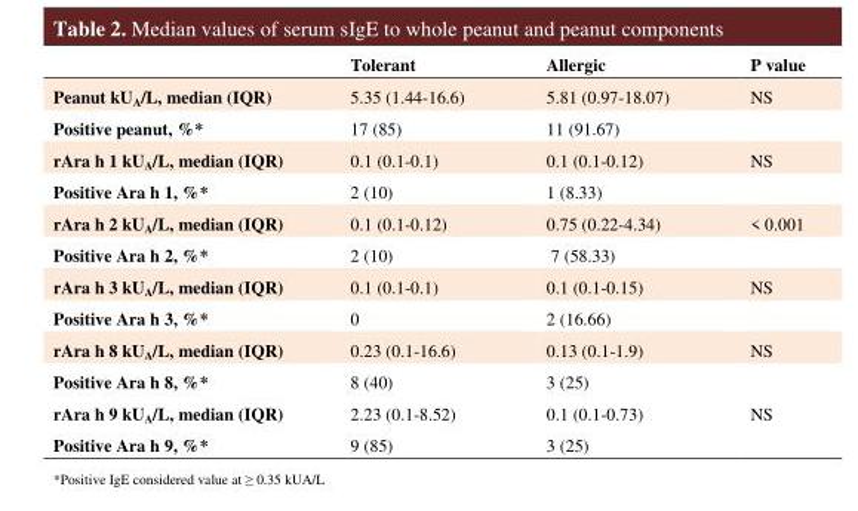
<table><thead><tr><td></td><td>Tolerant</td><td>Allergic</td><td>P value</td></tr></thead><tbody><tr><td>Peanut kU<sub>A</sub>/L, median (IQR)</td><td>5.35 (1.44-16.6)</td><td>5.81 (0.97-18.07)</td><td>NS</td></tr><tr><td>Positive peanut, %*</td><td>17 (85)</td><td>11 (91.67)</td><td></td></tr><tr><td>rAra h 1 kU<sub>A</sub>/L, median (IQR)</td><td>0.1 (0.1-0.1)</td><td>0.1 (0.1-0.12)</td><td>NS</td></tr><tr><td>Positive Ara h 1, %*</td><td>2 (10)</td><td>1 (8.33)</td><td></td></tr><tr><td>rAra h 2 kU<sub>A</sub>/L, median (IQR)</td><td>0.1 (0.1-0.12)</td><td>0.75 (0.22-4.34)</td><td>&lt; 0.001</td></tr><tr><td>Positive Ara h 2, %*</td><td>2 (10)</td><td>7 (58.33)</td><td></td></tr><tr><td>rAra h 3 kU<sub>A</sub>/L, median (IQR)</td><td>0.1 (0.1-0.1)</td><td>0.1 (0.1-0.15)</td><td>NS</td></tr><tr><td>Positive Ara h 3, %*</td><td>0</td><td>2 (16.66)</td><td></td></tr><tr><td>rAra h 8 kU<sub>A</sub>/L, median (IQR)</td><td>0.23 (0.1-16.6)</td><td>0.13 (0.1-1.9)</td><td>NS</td></tr><tr><td>Positive Ara h 8, %*</td><td>8 (40)</td><td>3 (25)</td><td></td></tr><tr><td>rAra h 9 kU<sub>A</sub>/L, median (IQR)</td><td>2.23 (0.1-8.52)</td><td>0.1 (0.1-0.73)</td><td>NS</td></tr><tr><td>Positive Ara h 9, %*</td><td>9 (85)</td><td>3 (25)</td><td></td></tr></tbody></table>